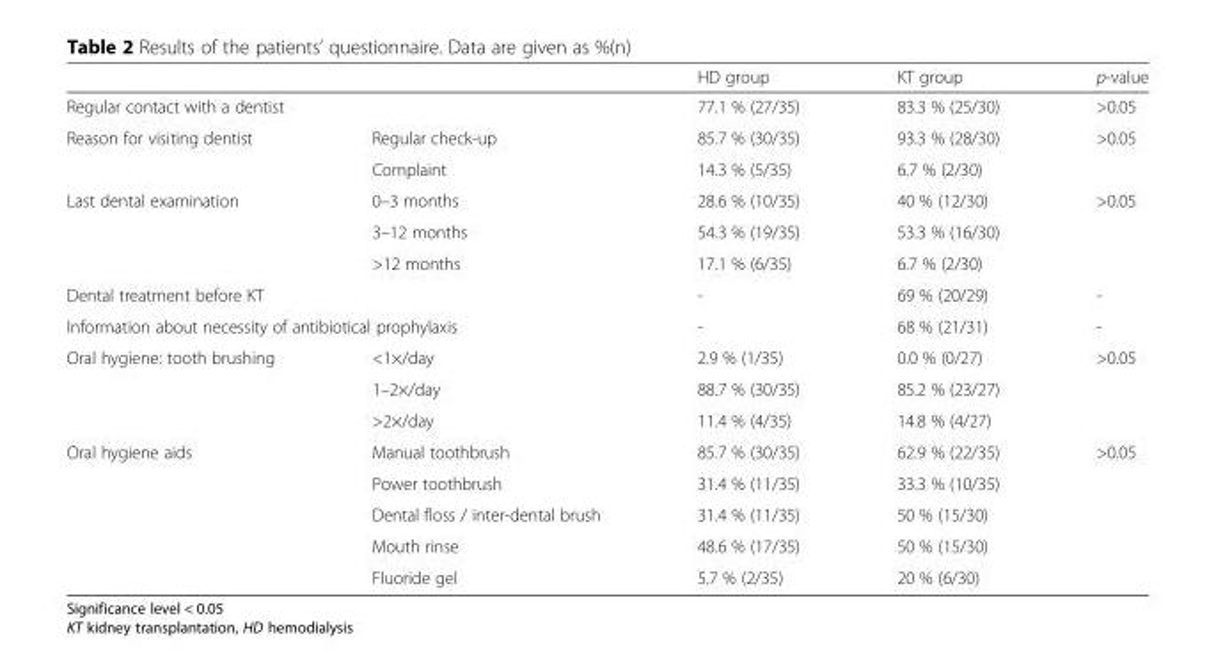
<table><thead><tr><td></td><td></td><td>HD group</td><td>KT group</td><td>p-value</td></tr></thead><tbody><tr><td colspan="2">Regular contact with a dentist</td><td>77.1 % (27/35)</td><td>83.3 % (25/30)</td><td>&gt;0.05</td></tr><tr><td rowspan="2">Reason for visiting dentist</td><td>Regular check-up</td><td>85.7 % (30/35)</td><td>93.3 % (28/30)</td><td rowspan="2">&gt;0.05</td></tr><tr><td>Complaint</td><td>14.3 % (5/35)</td><td>6.7 % (2/30)</td></tr><tr><td rowspan="3">Last dental examination</td><td>0–3 months</td><td>28.6 % (10/35)</td><td>40 % (12/30)</td><td rowspan="3">&gt;0.05</td></tr><tr><td>3–12 months</td><td>54.3 % (19/35)</td><td>53.3 % (16/30)</td></tr><tr><td>&gt;12 months</td><td>17.1 % (6/35)</td><td>6.7 % (2/30)</td></tr><tr><td colspan="2">Dental treatment before KT</td><td>-</td><td>69 % (20/29)</td><td>-</td></tr><tr><td colspan="2">Information about necessity of antibiotical prophylaxis</td><td>-</td><td>68 % (21/31)</td><td>-</td></tr><tr><td rowspan="3">Oral hygiene: tooth brushing</td><td>&lt;1×/day</td><td>2.9 % (1/35)</td><td>0.0 % (0/27)</td><td rowspan="3">&gt;0.05</td></tr><tr><td>1–2×/day</td><td>88.7 % (30/35)</td><td>85.2 % (23/27)</td></tr><tr><td>&gt;2×/day</td><td>11.4 % (4/35)</td><td>14.8 % (4/27)</td></tr><tr><td rowspan="5">Oral hygiene aids</td><td>Manual toothbrush</td><td>85.7 % (30/35)</td><td>62.9 % (22/35)</td><td rowspan="5">&gt;0.05</td></tr><tr><td>Power toothbrush</td><td>31.4 % (11/35)</td><td>33.3 % (10/35)</td></tr><tr><td>Dental floss / inter-dental brush</td><td>31.4 % (11/35)</td><td>50 % (15/30)</td></tr><tr><td>Mouth rinse</td><td>48.6 % (17/35)</td><td>50 % (15/30)</td></tr><tr><td>Fluoride gel</td><td>5.7 % (2/35)</td><td>20 % (6/30)</td></tr></tbody></table>